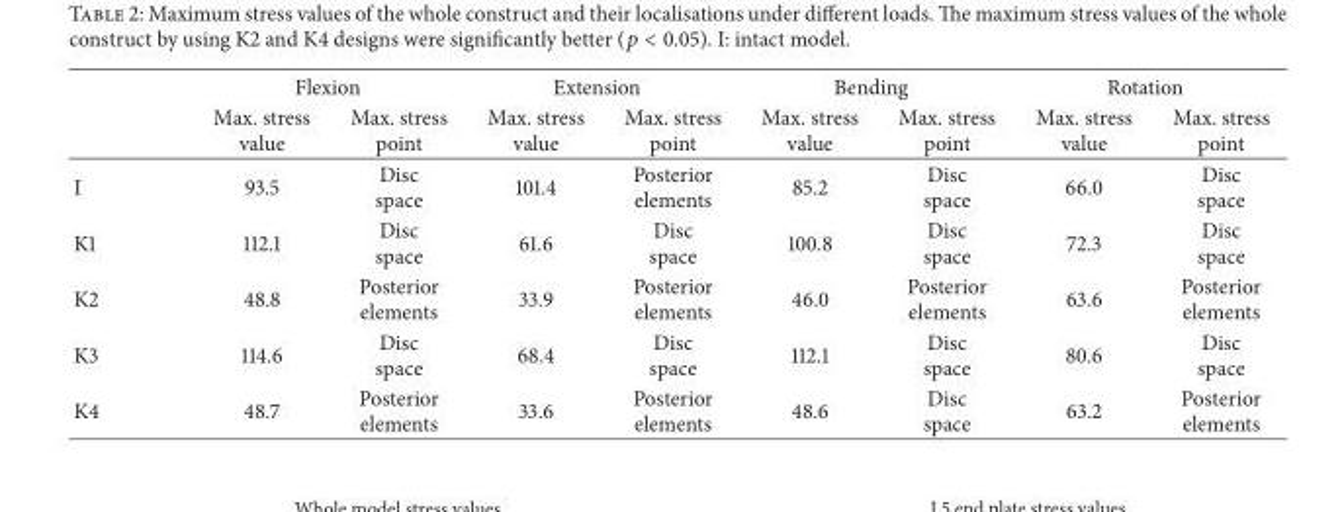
<table><thead><tr><td rowspan="2"></td><td colspan="2">Flexion</td><td colspan="2">Extension</td><td colspan="2">Bending</td><td colspan="2">Rotation</td></tr><tr><td>Max. stress value</td><td>Max. stress point</td><td>Max. stress value</td><td>Max. stress point</td><td>Max. stress value</td><td>Max. stress point</td><td>Max. stress value</td><td>Max. stress point</td></tr></thead><tbody><tr><td>I</td><td>93.5</td><td>Disc space</td><td>101.4</td><td>Posterior elements</td><td>85.2</td><td>Disc space</td><td>66.0</td><td>Disc space</td></tr><tr><td>K1</td><td>112.1</td><td>Disc space</td><td>61.6</td><td>Disc space</td><td>100.8</td><td>Disc space</td><td>72.3</td><td>Disc space</td></tr><tr><td>K2</td><td>48.8</td><td>Posterior elements</td><td>33.9</td><td>Posterior elements</td><td>46.0</td><td>Posterior elements</td><td>63.6</td><td>Posterior elements</td></tr><tr><td>K3</td><td>114.6</td><td>Disc space</td><td>68.4</td><td>Disc space</td><td>112.1</td><td>Disc space</td><td>80.6</td><td>Disc space</td></tr><tr><td>K4</td><td>48.7</td><td>Posterior elements</td><td>33.6</td><td>Posterior elements</td><td>48.6</td><td>Disc space</td><td>63.2</td><td>Posterior elements</td></tr></tbody></table>